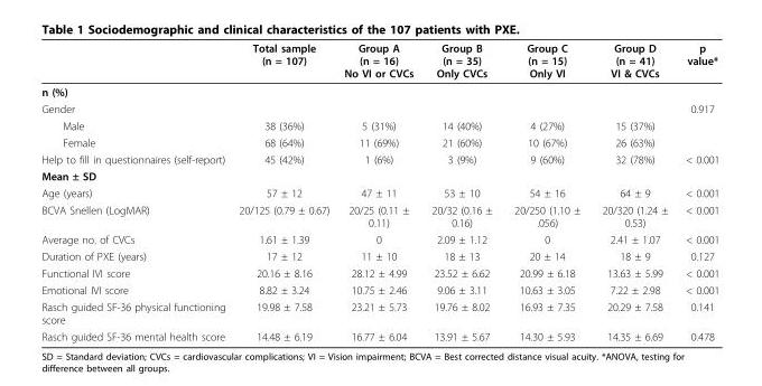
<table><thead><tr><td></td><td>Total sample (n = 107)</td><td>Group A (n = 16) No VI or CVCs</td><td>Group B (n = 35) Only CVCs</td><td>Group C (n = 15) Only VI</td><td>Group D (n = 41) VI &amp; CVCs</td><td>p value*</td></tr></thead><tbody><tr><td colspan="7">n (%)</td></tr><tr><td>Gender</td><td></td><td></td><td></td><td></td><td></td><td>0.917</td></tr><tr><td>Male</td><td>38 (36%)</td><td>5 (31%)</td><td>14 (40%)</td><td>4 (27%)</td><td>15 (37%)</td><td></td></tr><tr><td>Female</td><td>68 (64%)</td><td>11 (69%)</td><td>21 (60%)</td><td>10 (67%)</td><td>26 (63%)</td><td></td></tr><tr><td>Help to fill in questionnaires (self-report)</td><td>45 (42%)</td><td>1 (6%)</td><td>3 (9%)</td><td>9 (60%)</td><td>32 (78%)</td><td>&lt; 0.001</td></tr><tr><td colspan="7">Mean ± SD</td></tr><tr><td>Age (years)</td><td>57 ± 12</td><td>47 ± 11</td><td>53 ± 10</td><td>54 ± 16</td><td>64 ± 9</td><td>&lt; 0.001</td></tr><tr><td>BCVA Snellen (LogMAR)</td><td>20/125 (0.79 ± 0.67)</td><td>20/25 (0.11 ± 0.11)</td><td>20/32 (0.16 ± 0.16)</td><td>20/250 (1.10 ± .056)</td><td>20/320 (1.24 ± 0.53)</td><td>&lt; 0.001</td></tr><tr><td>Average no. of CVCs</td><td>1.61 ± 1.39</td><td>0</td><td>2.09 ± 1.12</td><td>0</td><td>2.41 ± 1.07</td><td>&lt; 0.001</td></tr><tr><td>Duration of PXE (years)</td><td>17 ± 12</td><td>11 ± 10</td><td>18 ± 13</td><td>20 ± 14</td><td>18 ± 9</td><td>0.127</td></tr><tr><td>Functional IVI score</td><td>20.16 ± 8.16</td><td>28.12 ± 4.99</td><td>23.52 ± 6.62</td><td>20.99 ± 6.18</td><td>13.63 ± 5.99</td><td>&lt; 0.001</td></tr><tr><td>Emotional IVI score</td><td>8.82 ± 3.24</td><td>10.75 ± 2.46</td><td>9.06 ± 3.11</td><td>10.63 ± 3.05</td><td>7.22 ± 2.98</td><td>&lt; 0.001</td></tr><tr><td>Rasch guided SF-36 physical functioning score</td><td>19.98 ± 7.58</td><td>23.21 ± 5.73</td><td>19.76 ± 8.02</td><td>16.93 ± 7.35</td><td>20.29 ± 7.58</td><td>0.141</td></tr><tr><td>Rasch guided SF-36 mental health score</td><td>14.48 ± 6.19</td><td>16.77 ± 6.04</td><td>13.91 ± 5.67</td><td>14.30 ± 5.93</td><td>14.35 ± 6.69</td><td>0.478</td></tr></tbody></table>